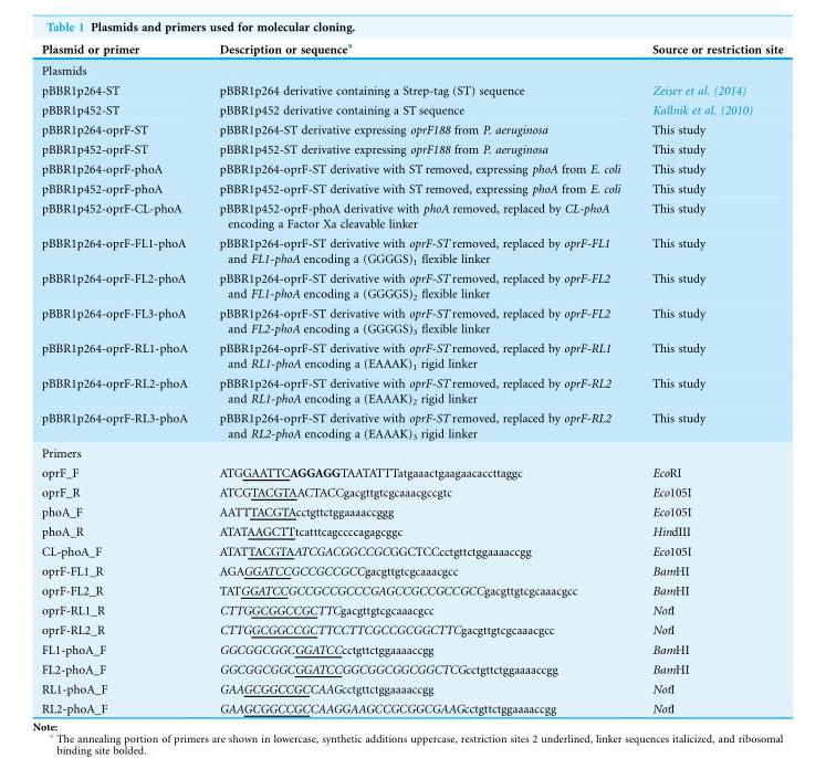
<table><thead><tr><td>Plasmid or primer</td><td>Description or sequence<sup>a</sup></td><td>Source or restriction site</td></tr></thead><tbody><tr><td colspan="3">Plasmids</td></tr><tr><td>pBBR1p264-ST</td><td>pBBR1p264 derivative containing a Strep-tag (ST) sequence</td><td>Zeiser et al. (2014)</td></tr><tr><td>pBBR1p452-ST</td><td>pBBR1p452 derivative containing a ST sequence</td><td>Kallnik et al. (2010)</td></tr><tr><td>pBBR1p264-oprF-ST</td><td>pBBR1p264-ST derivative expressing oprF188 from P. aeruginosa</td><td>This study</td></tr><tr><td>pBBR1p452-oprF-ST</td><td>pBBR1p452-ST derivative expressing oprF188 from P. aeruginosa</td><td>This study</td></tr><tr><td>pBBR1p264-oprF-phoA</td><td>pBBR1p264-oprF-ST derivative with ST removed, expressing phoA from E. coli</td><td>This study</td></tr><tr><td>pBBR1p452-oprF-phoA</td><td>pBBR1p452-oprF-ST derivative with ST removed, expressing phoA from E. coli</td><td>This study</td></tr><tr><td>pBBR1p452-oprF-CL-phoA</td><td>pBBR1p452-oprF-phoA derivative with phoA removed, replaced by CL-phoA encoding a Factor Xa cleavable linker</td><td>This study</td></tr><tr><td>pBBR1p264-oprF-FL1-phoA</td><td>pBBR1p264-oprF-ST derivative with oprF-ST removed, replaced by oprF-FL1 and FL1-phoA encoding a (GGGGS)<sub>1</sub> flexible linker</td><td>This study</td></tr><tr><td>pBBR1p264-oprF-FL2-phoA</td><td>pBBR1p264-oprF-ST derivative with oprF-ST removed, replaced by oprF-FL2 and FL1-phoA encoding a (GGGGS)<sub>2</sub> flexible linker</td><td>This study</td></tr><tr><td>pBBR1p264-oprF-FL3-phoA</td><td>pBBR1p264-oprF-ST derivative with oprF-ST removed, replaced by oprF-FL2 and FL2-phoA encoding a (GGGGS)<sub>3</sub> flexible linker</td><td>This study</td></tr><tr><td>pBBR1p264-oprF-RL1-phoA</td><td>pBBR1p264-oprF-ST derivative with oprF-ST removed, replaced by oprF-RL1 and RL1-phoA encoding a (EAAAK)<sub>1</sub> rigid linker</td><td>This study</td></tr><tr><td>pBBR1p264-oprF-RL2-phoA</td><td>pBBR1p264-oprF-ST derivative with oprF-ST removed, replaced by oprF-RL2 and RL1-phoA encoding a (EAAAK)<sub>2</sub> rigid linker</td><td>This study</td></tr><tr><td>pBBR1p264-oprF-RL3-phoA</td><td>pBBR1p264-oprF-ST derivative with oprF-ST removed, replaced by oprF-RL2 and RL2-phoA encoding a (EAAAK)<sub>3</sub> rigid linker</td><td>This study</td></tr><tr><td colspan="3">Primers</td></tr><tr><td>oprF_F</td><td>ATGGAATTCAGGAGGTAATATTTatgaaactgaagaacaccttaggc</td><td>EcoRI</td></tr><tr><td>oprF_R</td><td>ATCGTACGTAACTACCgacgttgtcgcaaacgccgtc</td><td>Eco105I</td></tr><tr><td>phoA_F</td><td>AATTTACGTAcctgttctggaaaaccggg</td><td>Eco105I</td></tr><tr><td>phoA_R</td><td>ATATAAGCTTtcatttcagccccagagcggc</td><td>HindIII</td></tr><tr><td>CL-phoA_F</td><td>ATATTACGTAATCGACGGCCGCGGCTCCcctgttctggaaaaccgg</td><td>Eco105I</td></tr><tr><td>oprF-FL1_R</td><td>AGAGGATCCGCCGCCGCCgacgttgtcgcaaacgcc</td><td>BamHI</td></tr><tr><td>oprF-FL2_R</td><td>TATGGATCCGCCGCCGCCCGAGCCGCCGCCGCCgacgttgtcgcaaacgcc</td><td>BamHI</td></tr><tr><td>oprF-RL1_R</td><td>CTTGGCGGCCGCTTCgacgttgtcgcaaacgcc</td><td>NotI</td></tr><tr><td>oprF-RL2_R</td><td>CTTGGCGGCCGCTTCCTTCGCCGCGGCTTCgacgttgtcgcaaacgcc</td><td>NotI</td></tr><tr><td>FL1-phoA_F</td><td>GGCGGCGGCGGATCCcctgttctggaaaaccgg</td><td>BamHI</td></tr><tr><td>FL2-phoA_F</td><td>GGCGGCGGCGGATCCGGCGGCGGCGGCTCGcctgttctggaaaaccgg</td><td>BamHI</td></tr><tr><td>RL1-phoA_F</td><td>GAAGCGGCCGCCAAGcctgttctggaaaaccgg</td><td>NotI</td></tr><tr><td>RL2-phoA_F</td><td>GAAGCGGCCGCCAAGGAAGCCGCGGCGAAGcctgttctggaaaaccgg</td><td>NotI</td></tr></tbody></table>